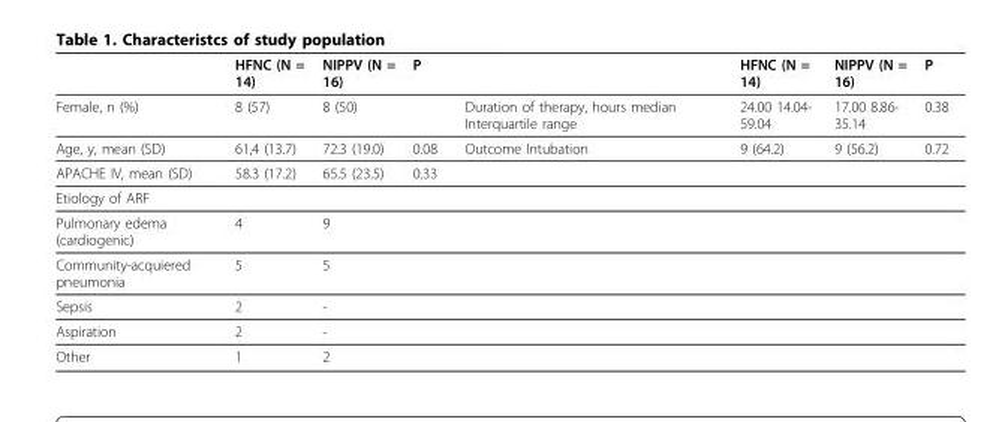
<table><thead><tr><td></td><td>HFNC (N = 14)</td><td>NIPPV (N = 16)</td><td>P</td><td></td><td>HFNC (N = 14)</td><td>NIPPV (N = 16)</td><td>P</td></tr></thead><tbody><tr><td>Female, n (%)</td><td>8 (57)</td><td>8 (50)</td><td></td><td>Duration of therapy, hours median Interquartile range</td><td>24.00 14.04- 59.04</td><td>17.00 8.86- 35.14</td><td>0.38</td></tr><tr><td>Age, y, mean (SD)</td><td>61,4 (13.7)</td><td>72.3 (19.0)</td><td>0.08</td><td>Outcome Intubation</td><td>9 (64.2)</td><td>9 (56.2)</td><td>0.72</td></tr><tr><td>APACHE IV, mean (SD)</td><td>58.3 (17.2)</td><td>65.5 (23.5)</td><td>0.33</td><td></td><td></td><td></td><td></td></tr><tr><td colspan="8">Etiology of ARF</td></tr><tr><td>Pulmonary edema (cardiogenic)</td><td>4</td><td>9</td><td></td><td></td><td></td><td></td><td></td></tr><tr><td>Community-acquiered pneumonia</td><td>5</td><td>5</td><td></td><td></td><td></td><td></td><td></td></tr><tr><td>Sepsis</td><td>2</td><td>-</td><td></td><td></td><td></td><td></td><td></td></tr><tr><td>Aspiration</td><td>2</td><td>-</td><td></td><td></td><td></td><td></td><td></td></tr><tr><td>Other</td><td>1</td><td>2</td><td></td><td></td><td></td><td></td><td></td></tr></tbody></table>